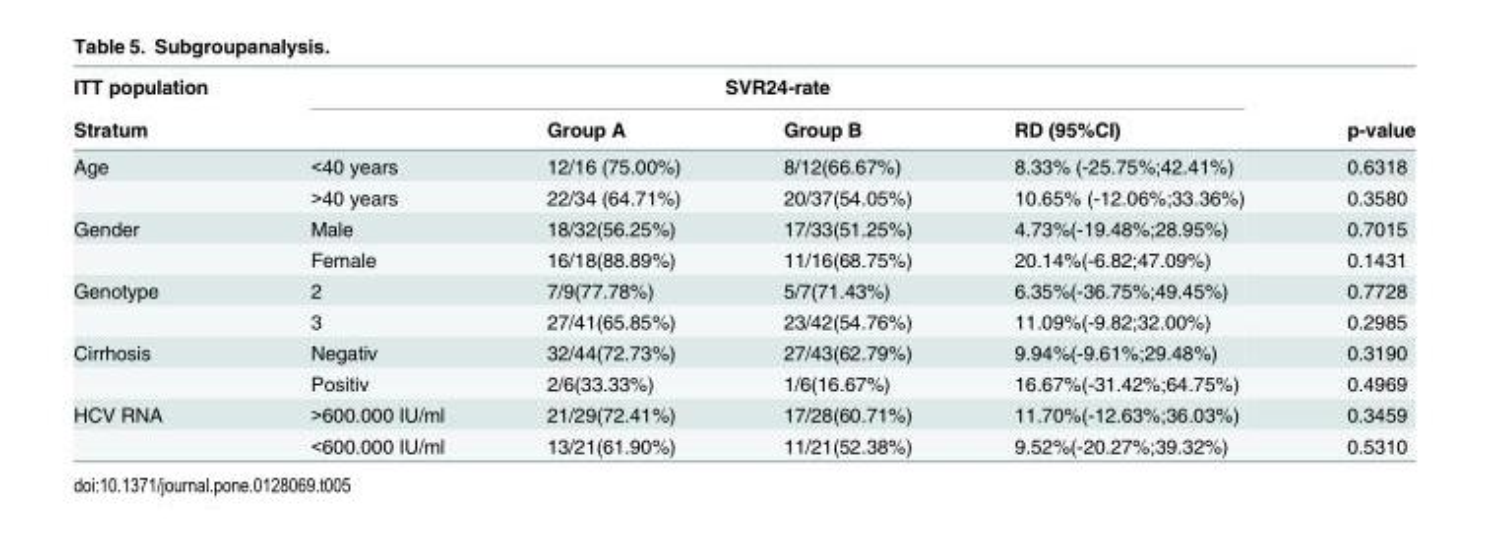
<table><thead><tr><td rowspan="2">ITT population Stratum</td><td colspan="4">SVR24-rate</td><td rowspan="2">p-value</td></tr><tr><td></td><td>Group A</td><td>Group B</td><td>RD (95%CI)</td></tr></thead><tbody><tr><td rowspan="2">Age</td><td>&lt;40 years</td><td>12/16 (75.00%)</td><td>8/12(66.67%)</td><td>8.33% (-25.75%;42.41%)</td><td>0.6318</td></tr><tr><td>&gt;40 years</td><td>22/34 (64.71%)</td><td>20/37(54.05%)</td><td>10.65% (-12.06%;33.36%)</td><td>0.3580</td></tr><tr><td rowspan="2">Gender</td><td>Male</td><td>18/32(56.25%)</td><td>17/33(51.25%)</td><td>4.73%(-19.48%;28.95%)</td><td>0.7015</td></tr><tr><td>Female</td><td>16/18(88.89%)</td><td>11/16(68.75%)</td><td>20.14%(-6.82;47.09%)</td><td>0.1431</td></tr><tr><td rowspan="2">Genotype</td><td>2</td><td>7/9(77.78%)</td><td>5/7(71.43%)</td><td>6.35%(-36.75%;49.45%)</td><td>0.7728</td></tr><tr><td>3</td><td>27/41(65.85%)</td><td>23/42(54.76%)</td><td>11.09%(-9.82;32.00%)</td><td>0.2985</td></tr><tr><td rowspan="2">Cirrhosis</td><td>Negativ</td><td>32/44(72.73%)</td><td>27/43(62.79%)</td><td>9.94%(-9.61%;29.48%)</td><td>0.3190</td></tr><tr><td>Positiv</td><td>2/6(33.33%)</td><td>1/6(16.67%)</td><td>16.67%(-31.42%;64.75%)</td><td>0.4969</td></tr><tr><td rowspan="2">HCV RNA</td><td>&gt;600.000 IU/ml</td><td>21/29(72.41%)</td><td>17/28(60.71%)</td><td>11.70%(-12.63%;36.03%)</td><td>0.3459</td></tr><tr><td>&lt;600.000 IU/ml</td><td>13/21(61.90%)</td><td>11/21(52.38%)</td><td>9.52%(-20.27%;39.32%)</td><td>0.5310</td></tr></tbody></table>